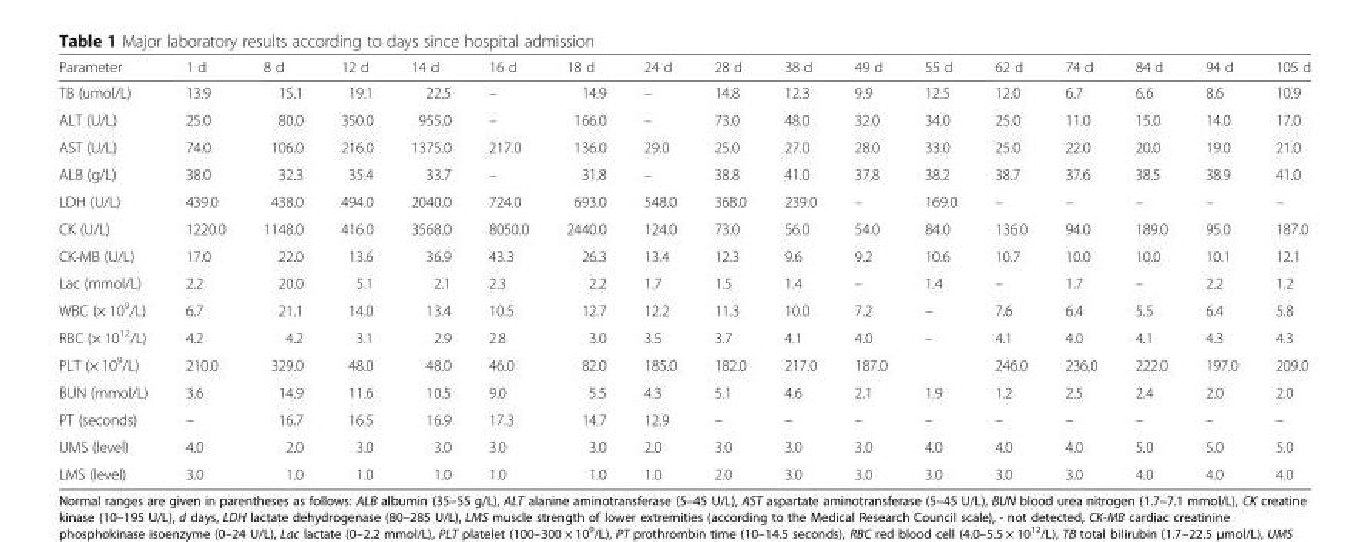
<table><thead><tr><td>Parameter</td><td>1 d</td><td>8 d</td><td>12 d</td><td>14 d</td><td>16 d</td><td>18 d</td><td>24 d</td><td>28 d</td><td>38 d</td><td>49 d</td><td>55 d</td><td>62 d</td><td>74 d</td><td>84 d</td><td>94 d</td><td>105 d</td></tr></thead><tbody><tr><td>TB (umol/L)</td><td>13.9</td><td>15.1</td><td>19.1</td><td>22.5</td><td>–</td><td>14.9</td><td>–</td><td>14.8</td><td>12.3</td><td>9.9</td><td>12.5</td><td>12.0</td><td>6.7</td><td>6.6</td><td>8.6</td><td>10.9</td></tr><tr><td>ALT (U/L)</td><td>25.0</td><td>80.0</td><td>350.0</td><td>955.0</td><td>–</td><td>166.0</td><td>–</td><td>73.0</td><td>48.0</td><td>32.0</td><td>34.0</td><td>25.0</td><td>11.0</td><td>15.0</td><td>14.0</td><td>17.0</td></tr><tr><td>AST (U/L)</td><td>74.0</td><td>106.0</td><td>216.0</td><td>1375.0</td><td>217.0</td><td>136.0</td><td>29.0</td><td>25.0</td><td>27.0</td><td>28.0</td><td>33.0</td><td>25.0</td><td>22.0</td><td>20.0</td><td>19.0</td><td>21.0</td></tr><tr><td>ALB (g/L)</td><td>38.0</td><td>32.3</td><td>35.4</td><td>33.7</td><td>–</td><td>31.8</td><td>–</td><td>38.8</td><td>41.0</td><td>37.8</td><td>38.2</td><td>38.7</td><td>37.6</td><td>38.5</td><td>38.9</td><td>41.0</td></tr><tr><td>LDH (U/L)</td><td>439.0</td><td>438.0</td><td>494.0</td><td>2040.0</td><td>724.0</td><td>693.0</td><td>548.0</td><td>368.0</td><td>239.0</td><td>–</td><td>169.0</td><td>–</td><td>–</td><td>–</td><td>–</td><td>–</td></tr><tr><td>CK (U/L)</td><td>1220.0</td><td>1148.0</td><td>416.0</td><td>3568.0</td><td>8050.0</td><td>2440.0</td><td>124.0</td><td>73.0</td><td>56.0</td><td>54.0</td><td>84.0</td><td>136.0</td><td>94.0</td><td>189.0</td><td>95.0</td><td>187.0</td></tr><tr><td>CK-MB (U/L)</td><td>17.0</td><td>22.0</td><td>13.6</td><td>36.9</td><td>43.3</td><td>26.3</td><td>13.4</td><td>12.3</td><td>9.6</td><td>9.2</td><td>10.6</td><td>10.7</td><td>10.0</td><td>10.0</td><td>10.1</td><td>12.1</td></tr><tr><td>Lac (mmol/L)</td><td>2.2</td><td>20.0</td><td>5.1</td><td>2.1</td><td>2.3</td><td>2.2</td><td>1.7</td><td>1.5</td><td>1.4</td><td>–</td><td>1.4</td><td>–</td><td>1.7</td><td>–</td><td>2.2</td><td>1.2</td></tr><tr><td>WBC (× 10<sup>9</sup>/L)</td><td>6.7</td><td>21.1</td><td>14.0</td><td>13.4</td><td>10.5</td><td>12.7</td><td>12.2</td><td>11.3</td><td>10.0</td><td>7.2</td><td>–</td><td>7.6</td><td>6.4</td><td>5.5</td><td>6.4</td><td>5.8</td></tr><tr><td>RBC (× 10<sup>12</sup>/L)</td><td>4.2</td><td>4.2</td><td>3.1</td><td>2.9</td><td>2.8</td><td>3.0</td><td>3.5</td><td>3.7</td><td>4.1</td><td>4.0</td><td>–</td><td>4.1</td><td>4.0</td><td>4.1</td><td>4.3</td><td>4.3</td></tr><tr><td>PLT (× 10<sup>9</sup>/L)</td><td>210.0</td><td>329.0</td><td>48.0</td><td>48.0</td><td>46.0</td><td>82.0</td><td>185.0</td><td>182.0</td><td>217.0</td><td>187.0</td><td></td><td>246.0</td><td>236.0</td><td>222.0</td><td>197.0</td><td>209.0</td></tr><tr><td>BUN (mmol/L)</td><td>3.6</td><td>14.9</td><td>11.6</td><td>10.5</td><td>9.0</td><td>5.5</td><td>4.3</td><td>5.1</td><td>4.6</td><td>2.1</td><td>1.9</td><td>1.2</td><td>2.5</td><td>2.4</td><td>2.0</td><td>2.0</td></tr><tr><td>PT (seconds)</td><td>–</td><td>16.7</td><td>16.5</td><td>16.9</td><td>17.3</td><td>14.7</td><td>12.9</td><td>–</td><td>–</td><td>–</td><td>–</td><td>–</td><td>–</td><td>–</td><td>–</td><td>–</td></tr><tr><td>UMS (level)</td><td>4.0</td><td>2.0</td><td>3.0</td><td>3.0</td><td>3.0</td><td>3.0</td><td>2.0</td><td>3.0</td><td>3.0</td><td>3.0</td><td>4.0</td><td>4.0</td><td>4.0</td><td>5.0</td><td>5.0</td><td>5.0</td></tr><tr><td>LMS (level)</td><td>3.0</td><td>1.0</td><td>1.0</td><td>1.0</td><td>1.0</td><td>1.0</td><td>1.0</td><td>2.0</td><td>3.0</td><td>3.0</td><td>3.0</td><td>3.0</td><td>3.0</td><td>4.0</td><td>4.0</td><td>4.0</td></tr></tbody></table>